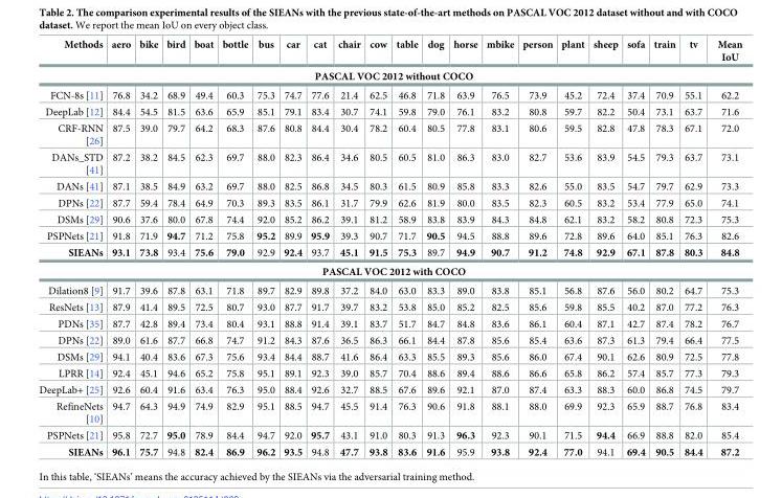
<table><thead><tr><td>Methods</td><td>aero</td><td>bike</td><td>bird</td><td>boat</td><td>bottle</td><td>bus</td><td>car</td><td>cat</td><td>chair</td><td>cow</td><td>table</td><td>dog</td><td>horse</td><td>mbike</td><td>person</td><td>plant</td><td>sheep</td><td>sofa</td><td>train</td><td>tv</td><td>Mean IoU</td></tr></thead><tbody><tr><td colspan="22">PASCAL VOC 2012 without COCO</td></tr><tr><td>FCN-8s [11]</td><td>76.8</td><td>34.2</td><td>68.9</td><td>49.4</td><td>60.3</td><td>75.3</td><td>74.7</td><td>77.6</td><td>21.4</td><td>62.5</td><td>46.8</td><td>71.8</td><td>63.9</td><td>76.5</td><td>73.9</td><td>45.2</td><td>72.4</td><td>37.4</td><td>70.9</td><td>55.1</td><td>62.2</td></tr><tr><td>DeepLab [12]</td><td>84.4</td><td>54.5</td><td>81.5</td><td>63.6</td><td>65.9</td><td>85.1</td><td>79.1</td><td>83.4</td><td>30.7</td><td>74.1</td><td>59.8</td><td>79.0</td><td>76.1</td><td>83.2</td><td>80.8</td><td>59.7</td><td>82.2</td><td>50.4</td><td>73.1</td><td>63.7</td><td>71.6</td></tr><tr><td>CRF-RNN [26]</td><td>87.5</td><td>39.0</td><td>79.7</td><td>64.2</td><td>68.3</td><td>87.6</td><td>80.8</td><td>84.4</td><td>30.4</td><td>78.2</td><td>60.4</td><td>80.5</td><td>77.8</td><td>83.1</td><td>80.6</td><td>59.5</td><td>82.8</td><td>47.8</td><td>78.3</td><td>67.1</td><td>72.0</td></tr><tr><td>DANs_STD [41]</td><td>87.2</td><td>38.2</td><td>84.5</td><td>62.3</td><td>69.7</td><td>88.0</td><td>82.3</td><td>86.4</td><td>34.6</td><td>80.5</td><td>60.5</td><td>81.0</td><td>86.3</td><td>83.0</td><td>82.7</td><td>53.6</td><td>83.9</td><td>54.5</td><td>79.3</td><td>63.7</td><td>73.1</td></tr><tr><td>DANs [41]</td><td>87.1</td><td>38.5</td><td>84.9</td><td>63.2</td><td>69.7</td><td>88.0</td><td>82.5</td><td>86.8</td><td>34.5</td><td>80.3</td><td>61.5</td><td>80.9</td><td>85.8</td><td>83.3</td><td>82.6</td><td>55.0</td><td>83.5</td><td>54.7</td><td>79.7</td><td>62.9</td><td>73.3</td></tr><tr><td>DPNs [22]</td><td>87.7</td><td>59.4</td><td>78.4</td><td>64.9</td><td>70.3</td><td>89.3</td><td>83.5</td><td>86.1</td><td>31.7</td><td>79.9</td><td>62.6</td><td>81.9</td><td>80.0</td><td>83.5</td><td>82.3</td><td>60.5</td><td>83.2</td><td>53.4</td><td>77.9</td><td>65.0</td><td>74.1</td></tr><tr><td>DSMs [29]</td><td>90.6</td><td>37.6</td><td>80.0</td><td>67.8</td><td>74.4</td><td>92.0</td><td>85.2</td><td>86.2</td><td>39.1</td><td>81.2</td><td>58.9</td><td>83.8</td><td>83.9</td><td>84.3</td><td>84.8</td><td>62.1</td><td>83.2</td><td>58.2</td><td>80.8</td><td>72.3</td><td>75.3</td></tr><tr><td>PSPNets [21]</td><td>91.8</td><td>71.9</td><td>94.7</td><td>71.2</td><td>75.8</td><td>95.2</td><td>89.9</td><td>95.9</td><td>39.3</td><td>90.7</td><td>71.7</td><td>90.5</td><td>94.5</td><td>88.8</td><td>89.6</td><td>72.8</td><td>89.6</td><td>64.0</td><td>85.1</td><td>76.3</td><td>82.6</td></tr><tr><td>SIEANs</td><td>93.1</td><td>73.8</td><td>93.4</td><td>75.6</td><td>79.0</td><td>92.9</td><td>92.4</td><td>93.7</td><td>45.1</td><td>91.5</td><td>75.3</td><td>89.7</td><td>94.9</td><td>90.7</td><td>91.2</td><td>74.8</td><td>92.9</td><td>67.1</td><td>87.8</td><td>80.3</td><td>84.8</td></tr><tr><td colspan="22">PASCAL VOC 2012 with COCO</td></tr><tr><td>Dilation8 [9]</td><td>91.7</td><td>39.6</td><td>87.8</td><td>63.1</td><td>71.8</td><td>89.7</td><td>82.9</td><td>89.8</td><td>37.2</td><td>84.0</td><td>63.0</td><td>83.3</td><td>89.0</td><td>83.8</td><td>85.1</td><td>56.8</td><td>87.6</td><td>56.0</td><td>80.2</td><td>64.7</td><td>75.3</td></tr><tr><td>ResNets [13]</td><td>87.9</td><td>41.4</td><td>89.5</td><td>72.5</td><td>80.7</td><td>93.0</td><td>87.7</td><td>91.7</td><td>39.7</td><td>83.2</td><td>53.8</td><td>85.0</td><td>85.2</td><td>82.5</td><td>85.6</td><td>59.8</td><td>85.5</td><td>40.2</td><td>87.0</td><td>77.2</td><td>76.3</td></tr><tr><td>PDNs [35]</td><td>87.7</td><td>42.8</td><td>89.4</td><td>73.4</td><td>80.4</td><td>93.1</td><td>88.8</td><td>91.4</td><td>39.1</td><td>83.7</td><td>51.7</td><td>84.7</td><td>84.8</td><td>83.6</td><td>86.1</td><td>60.4</td><td>87.1</td><td>42.7</td><td>87.4</td><td>78.2</td><td>76.7</td></tr><tr><td>DPNs [22]</td><td>89.0</td><td>61.6</td><td>87.7</td><td>66.8</td><td>74.7</td><td>91.2</td><td>84.3</td><td>87.6</td><td>36.5</td><td>86.3</td><td>66.1</td><td>84.4</td><td>87.8</td><td>85.6</td><td>85.4</td><td>63.6</td><td>87.3</td><td>61.3</td><td>79.4</td><td>66.4</td><td>77.5</td></tr><tr><td>DSMs [29]</td><td>94.1</td><td>40.4</td><td>83.6</td><td>67.3</td><td>75.6</td><td>93.4</td><td>84.4</td><td>88.7</td><td>41.6</td><td>86.4</td><td>63.3</td><td>85.5</td><td>89.3</td><td>85.6</td><td>86.0</td><td>67.4</td><td>90.1</td><td>62.6</td><td>80.9</td><td>72.5</td><td>77.8</td></tr><tr><td>LPRR [14]</td><td>92.4</td><td>45.1</td><td>94.6</td><td>65.2</td><td>75.8</td><td>95.1</td><td>89.1</td><td>92.3</td><td>39.0</td><td>85.7</td><td>70.4</td><td>88.6</td><td>89.4</td><td>88.6</td><td>86.6</td><td>65.8</td><td>86.2</td><td>57.4</td><td>85.7</td><td>77.3</td><td>79.3</td></tr><tr><td>DeepLab+ [25]</td><td>92.6</td><td>60.4</td><td>91.6</td><td>63.4</td><td>76.3</td><td>95.0</td><td>88.4</td><td>92.6</td><td>32.7</td><td>88.5</td><td>67.6</td><td>89.6</td><td>92.1</td><td>87.0</td><td>87.4</td><td>63.3</td><td>88.3</td><td>60.0</td><td>86.8</td><td>74.5</td><td>79.7</td></tr><tr><td>RefineNets [10]</td><td>94.7</td><td>64.3</td><td>94.9</td><td>74.9</td><td>82.9</td><td>95.1</td><td>88.5</td><td>94.7</td><td>45.5</td><td>91.4</td><td>76.3</td><td>90.6</td><td>91.8</td><td>88.1</td><td>88.0</td><td>69.9</td><td>92.3</td><td>65.9</td><td>88.7</td><td>76.8</td><td>83.4</td></tr><tr><td>PSPNets [21]</td><td>95.8</td><td>72.7</td><td>95.0</td><td>78.9</td><td>84.4</td><td>94.7</td><td>92.0</td><td>95.7</td><td>43.1</td><td>91.0</td><td>80.3</td><td>91.3</td><td>96.3</td><td>92.3</td><td>90.1</td><td>71.5</td><td>94.4</td><td>66.9</td><td>88.8</td><td>82.0</td><td>85.4</td></tr><tr><td>SIEANs</td><td>96.1</td><td>75.7</td><td>94.8</td><td>82.4</td><td>86.9</td><td>96.2</td><td>93.5</td><td>94.8</td><td>47.7</td><td>93.8</td><td>83.6</td><td>91.6</td><td>95.9</td><td>93.8</td><td>92.4</td><td>77.0</td><td>94.1</td><td>69.4</td><td>90.5</td><td>84.4</td><td>87.2</td></tr></tbody></table>